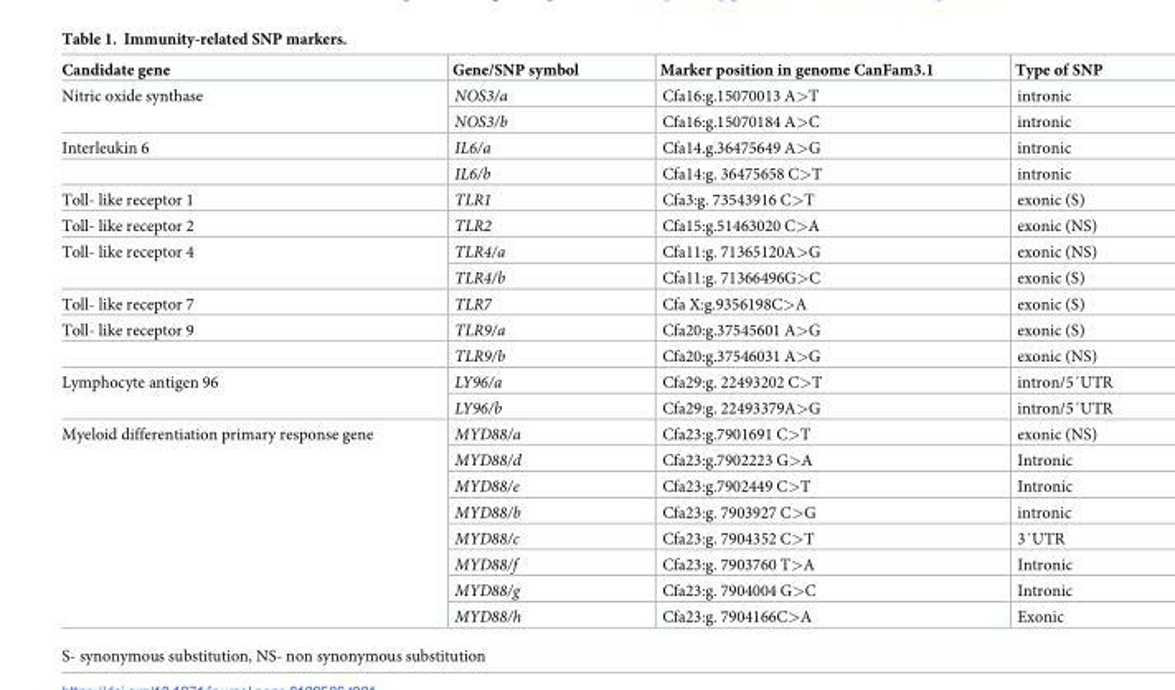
<table><thead><tr><td>Candidate gene</td><td>Gene/SNP symbol</td><td>Marker position in genome CanFam3.1</td><td>Type of SNP</td></tr></thead><tbody><tr><td rowspan="2">Nitric oxide synthase</td><td>NOS3/a</td><td>Cfa16:g.15070013 A&gt;T</td><td>intronic</td></tr><tr><td>NOS3/b</td><td>Cfa16:g.15070184 A&gt;C</td><td>intronic</td></tr><tr><td rowspan="2">Interleukin 6</td><td>IL6/a</td><td>Cfa14.g.36475649 A&gt;G</td><td>intronic</td></tr><tr><td>IL6/b</td><td>Cfa14:g. 36475658 C&gt;T</td><td>intronic</td></tr><tr><td>Toll- like receptor 1</td><td>TLR1</td><td>Cfa3:g. 73543916 C&gt;T</td><td>exonic (S)</td></tr><tr><td>Toll- like receptor 2</td><td>TLR2</td><td>Cfa15:g.51463020 C&gt;A</td><td>exonic (NS)</td></tr><tr><td rowspan="2">Toll- like receptor 4</td><td>TLR4/a</td><td>Cfa11:g. 71365120A&gt;G</td><td>exonic (NS)</td></tr><tr><td>TLR4/b</td><td>Cfa11:g. 71366496G&gt;C</td><td>exonic (S)</td></tr><tr><td>Toll- like receptor 7</td><td>TLR7</td><td>Cfa X:g.9356198C&gt;A</td><td>exonic (S)</td></tr><tr><td rowspan="2">Toll- like receptor 9</td><td>TLR9/a</td><td>Cfa20:g.37545601 A&gt;G</td><td>exonic (S)</td></tr><tr><td>TLR9/b</td><td>Cfa20:g.37546031 A&gt;G</td><td>exonic (NS)</td></tr><tr><td rowspan="2">Lymphocyte antigen 96</td><td>LY96/a</td><td>Cfa29:g. 22493202 C&gt;T</td><td>intron/5´UTR</td></tr><tr><td>LY96/b</td><td>Cfa29:g. 22493379A&gt;G</td><td>intron/5´UTR</td></tr><tr><td rowspan="8">Myeloid differentiation primary response gene</td><td>MYD88/a</td><td>Cfa23:g.7901691 C&gt;T</td><td>exonic (NS)</td></tr><tr><td>MYD88/d</td><td>Cfa23:g.7902223 G&gt;A</td><td>Intronic</td></tr><tr><td>MYD88/e</td><td>Cfa23:g.7902449 C&gt;T</td><td>Intronic</td></tr><tr><td>MYD88/b</td><td>Cfa23:g. 7903927 C&gt;G</td><td>intronic</td></tr><tr><td>MYD88/c</td><td>Cfa23:g. 7904352 C&gt;T</td><td>3´UTR</td></tr><tr><td>MYD88/f</td><td>Cfa23:g. 7903760 T&gt;A</td><td>Intronic</td></tr><tr><td>MYD88/g</td><td>Cfa23:g. 7904004 G&gt;C</td><td>Intronic</td></tr><tr><td>MYD88/h</td><td>Cfa23:g. 7904166C&gt;A</td><td>Exonic</td></tr></tbody></table>